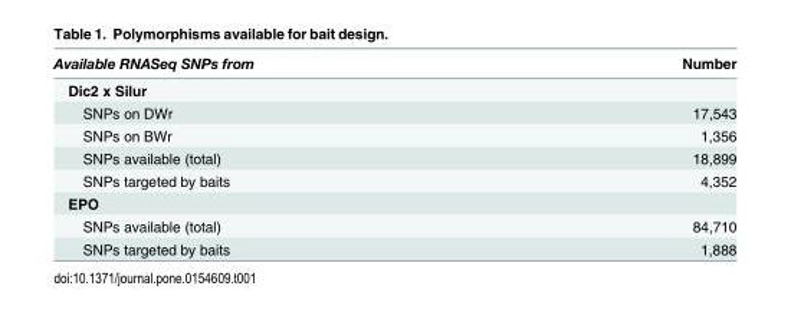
<table><thead><tr><td>Available RNASeq SNPs from</td><td>Number</td></tr></thead><tbody><tr><td colspan="2">Dic2 x Silur</td></tr><tr><td>SNPs on DWr</td><td>17,543</td></tr><tr><td>SNPs on BWr</td><td>1,356</td></tr><tr><td>SNPs available (total)</td><td>18,899</td></tr><tr><td>SNPs targeted by baits</td><td>4,352</td></tr><tr><td colspan="2">EPO</td></tr><tr><td>SNPs available (total)</td><td>84,710</td></tr><tr><td>SNPs targeted by baits</td><td>1,888</td></tr></tbody></table>